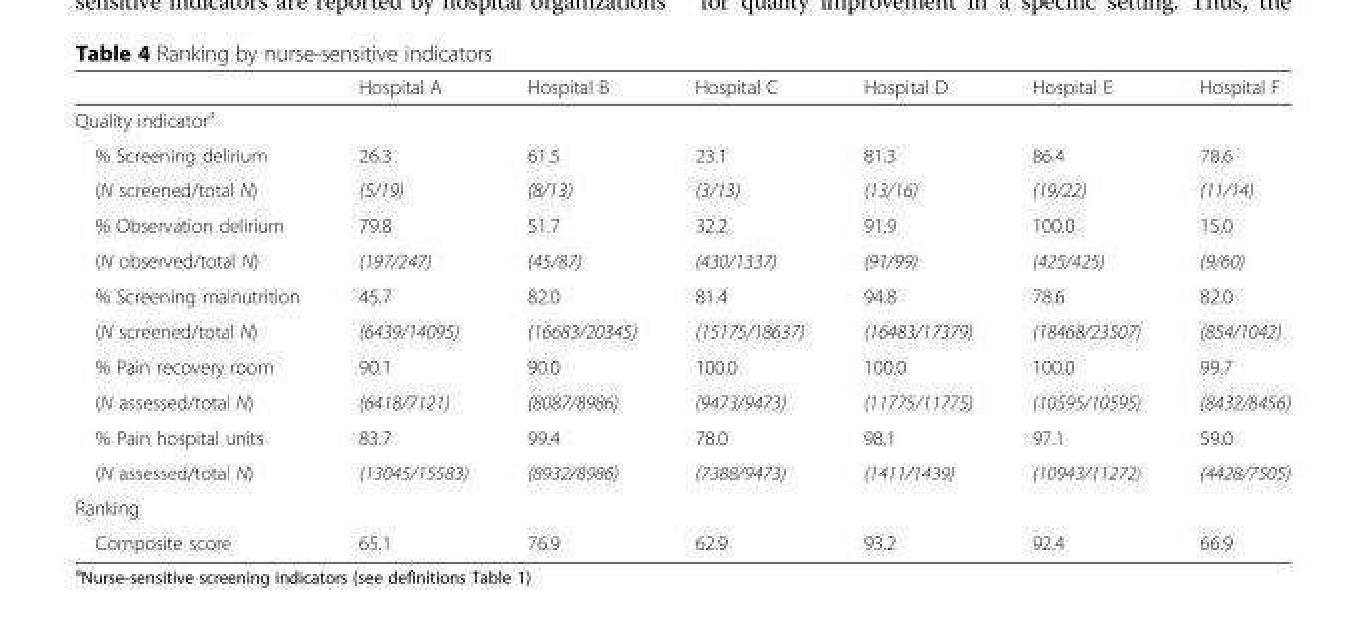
<table><thead><tr><td></td><td>Hospital A</td><td>Hospital B</td><td>Hospital C</td><td>Hospital D</td><td>Hospital E</td><td>Hospital F</td></tr></thead><tbody><tr><td colspan="7">Quality indicator<sup>a</sup></td></tr><tr><td>% Screening delirium</td><td>26.3</td><td>61.5</td><td>23.1</td><td>81.3</td><td>86.4</td><td>78.6</td></tr><tr><td>(N screened/total N)</td><td>(5/19)</td><td>(8/13)</td><td>(3/13)</td><td>(13/16)</td><td>(19/22)</td><td>(11/14)</td></tr><tr><td>% Observation delirium</td><td>79.8</td><td>51.7</td><td>32.2</td><td>91.9</td><td>100.0</td><td>15.0</td></tr><tr><td>(N observed/total N)</td><td>(197/247)</td><td>(45/87)</td><td>(430/1337)</td><td>(91/99)</td><td>(425/425)</td><td>(9/60)</td></tr><tr><td>% Screening malnutrition</td><td>45.7</td><td>82.0</td><td>81.4</td><td>94.8</td><td>78.6</td><td>82.0</td></tr><tr><td>(N screened/total N)</td><td>(6439/14095)</td><td>(16683/20345)</td><td>(15175/18637)</td><td>(16483/17379)</td><td>(18468/23507)</td><td>(854/1042)</td></tr><tr><td>% Pain recovery room</td><td>90.1</td><td>90.0</td><td>100.0</td><td>100.0</td><td>100.0</td><td>99.7</td></tr><tr><td>(N assessed/total N)</td><td>(6418/7121)</td><td>(8087/8986)</td><td>(9473/9473)</td><td>(11775/11775)</td><td>(10595/10595)</td><td>(8432/8456)</td></tr><tr><td>% Pain hospital units</td><td>83.7</td><td>99.4</td><td>78.0</td><td>98.1</td><td>97.1</td><td>59.0</td></tr><tr><td>(N assessed/total N)</td><td>(13045/15583)</td><td>(8932/8986)</td><td>(7388/9473)</td><td>(1411/1439)</td><td>(10943/11272)</td><td>(4428/7505)</td></tr><tr><td colspan="7">Ranking</td></tr><tr><td>Composite score</td><td>65.1</td><td>76.9</td><td>62.9</td><td>93.2</td><td>92.4</td><td>66.9</td></tr></tbody></table>